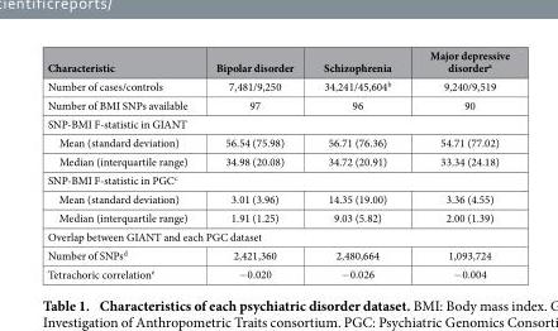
<table><thead><tr><td>Characteristic</td><td>Bipolar disorder</td><td>Schizophrenia</td><td>Major depressive disorder<sup>a</sup></td></tr></thead><tbody><tr><td>Number of cases/controls</td><td>7,481/9,250</td><td>34,241/45,604<sup>b</sup></td><td>9,240/9,519</td></tr><tr><td>Number of BMI SNPs available</td><td>97</td><td>96</td><td>90</td></tr><tr><td colspan="4">SNP-BMI F-statistic in GIANT</td></tr><tr><td>Mean (standard deviation)</td><td>56.54 (75.98)</td><td>56.71 (76.36)</td><td>54.71 (77.02)</td></tr><tr><td>Median (interquartile range)</td><td>34.98 (20.08)</td><td>34.72 (20.91)</td><td>33.34 (24.18)</td></tr><tr><td colspan="4">SNP-BMI F-statistic in PGC<sup>c</sup></td></tr><tr><td>Mean (standard deviation)</td><td>3.01 (3.96)</td><td>14.35 (19.00)</td><td>3.36 (4.55)</td></tr><tr><td>Median (interquartile range)</td><td>1.91 (1.25)</td><td>9.03 (5.82)</td><td>2.00 (1.39)</td></tr><tr><td colspan="4">Overlap between GIANT and each PGC dataset</td></tr><tr><td>Number of SNPs<sup>d</sup></td><td>2,421,360</td><td>2,480,664</td><td>1,093,724</td></tr><tr><td>Tetrachoric correlation<sup>e</sup></td><td>− 0.020</td><td>− 0.026</td><td>− 0.004</td></tr></tbody></table>